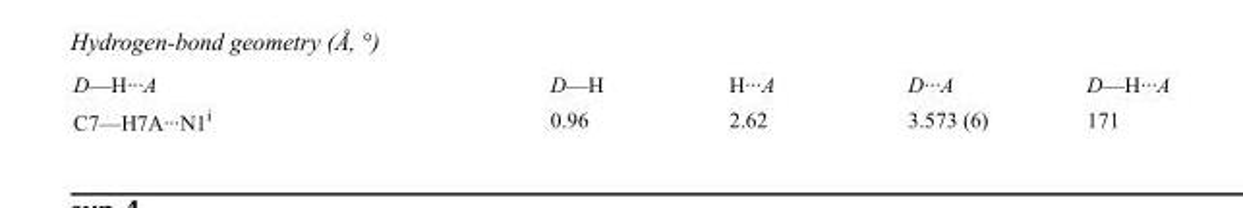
<table><tbody><tr><td>D—H···A</td><td>D—H</td><td>H···A</td><td>D···A</td><td>D—H···A</td></tr><tr><td>C7—H7A···N1<sup>i</sup></td><td>0.96</td><td>2.62</td><td>3.573 (6)</td><td>171</td></tr></tbody></table>